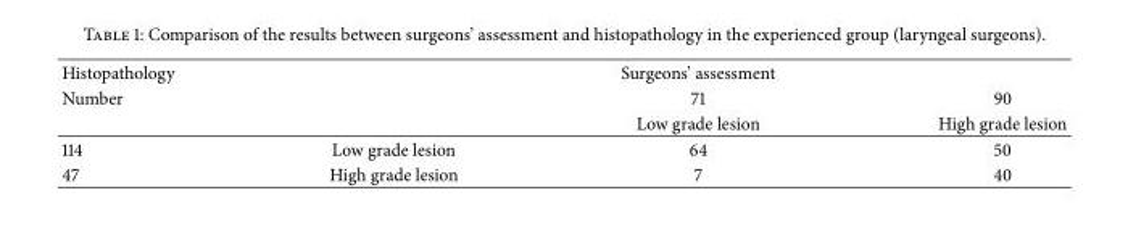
<table><thead><tr><td rowspan="3">Histopathology Number</td><td rowspan="3"></td><td rowspan="3">Surgeons’ assessment 71 Low grade lesion</td><td rowspan="3">90 High grade lesion</td></tr><tr></tr><tr></tr></thead><tbody><tr><td>114</td><td>Low grade lesion</td><td>64</td><td>50</td></tr><tr><td>47</td><td>High grade lesion</td><td>7</td><td>40</td></tr></tbody></table>